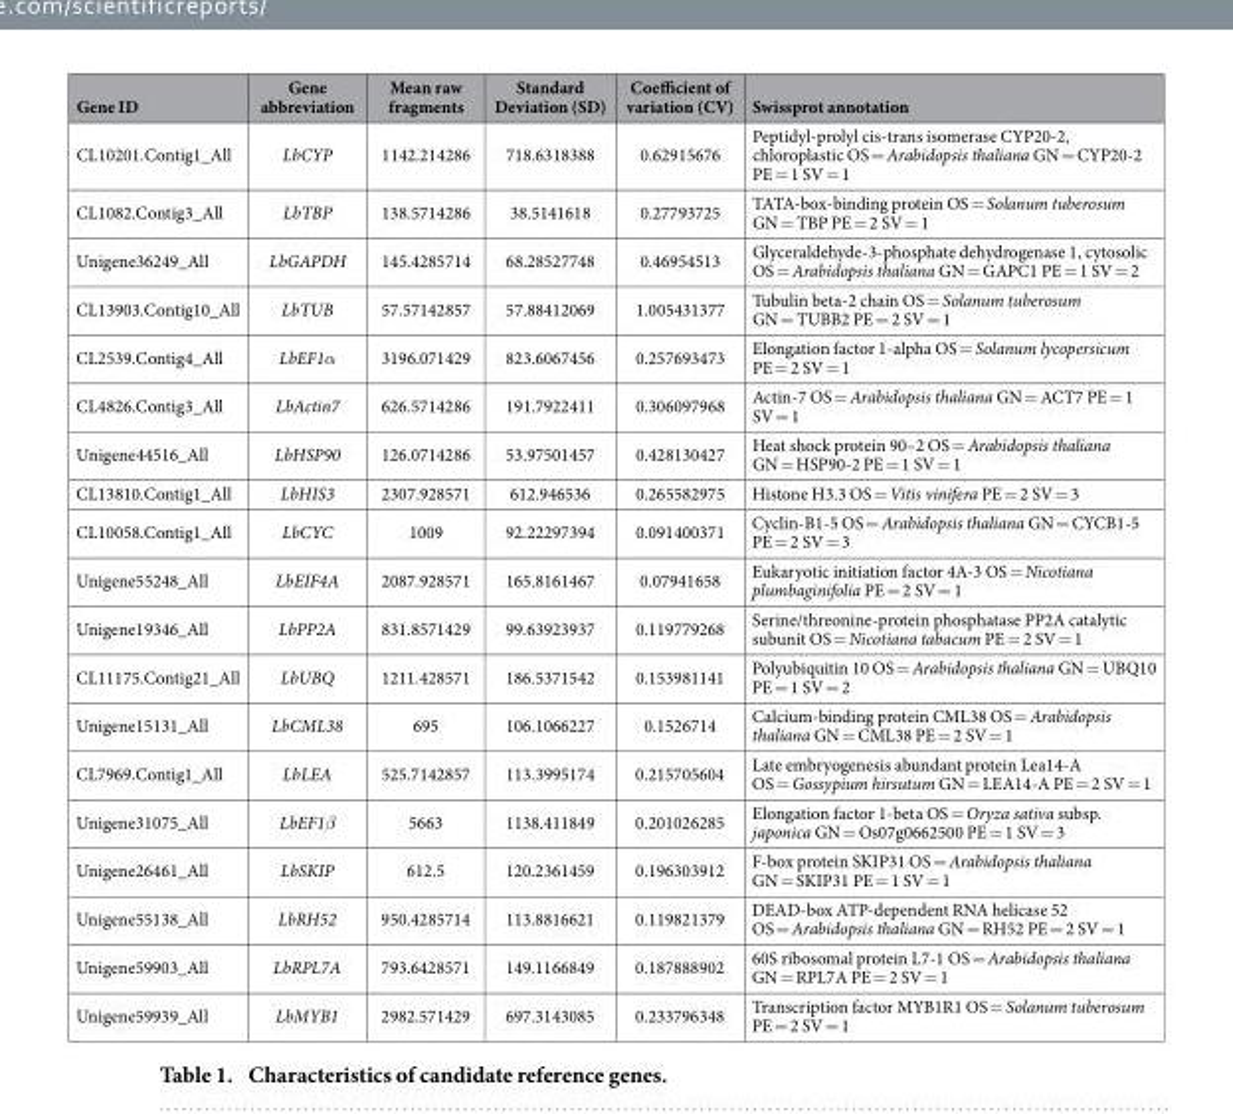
<table><thead><tr><td>Gene ID</td><td>Gene abbreviation</td><td>Mean raw fragments</td><td>Standard Deviation (SD)</td><td>Coefficient of variation (CV)</td><td>Swissprot annotation</td></tr></thead><tbody><tr><td>CL10201.Contig1_All</td><td>LbCYP</td><td>1142.214286</td><td>718.6318388</td><td>0.62915676</td><td>Peptidyl-prolyl cis-trans isomerase CYP20-2, chloroplastic OS = Arabidopsis thaliana GN = CYP20-2 PE = 1 SV = 1</td></tr><tr><td>CL1082.Contig3_All</td><td>LbTBP</td><td>138.5714286</td><td>38.5141618</td><td>0.27793725</td><td>TATA-box-binding protein OS = Solanum tuberosum GN = TBP PE = 2 SV = 1</td></tr><tr><td>Unigene36249_All</td><td>LbGAPDH</td><td>145.4285714</td><td>68.28527748</td><td>0.46954513</td><td>Glyceraldehyde-3-phosphate dehydrogenase 1, cytosolic OS = Arabidopsis thaliana GN = GAPC1 PE = 1 SV = 2</td></tr><tr><td>CL13903.Contig10_All</td><td>LbTUB</td><td>57.57142857</td><td>57.88412069</td><td>1.005431377</td><td>Tubulin beta-2 chain OS = Solanum tuberosum GN = TUBB2 PE = 2 SV = 1</td></tr><tr><td>CL2539.Contig4_All</td><td>LbEF1α</td><td>3196.071429</td><td>823.6067456</td><td>0.257693473</td><td>Elongation factor 1-alpha OS = Solanum lycopersicum PE = 2 SV = 1</td></tr><tr><td>CL4826.Contig3_All</td><td>LbActin7</td><td>626.5714286</td><td>191.7922411</td><td>0.306097968</td><td>Actin-7 OS = Arabidopsis thaliana GN = ACT7 PE = 1 SV = 1</td></tr><tr><td>Unigene44516_All</td><td>LbHSP90</td><td>126.0714286</td><td>53.97501457</td><td>0.428130427</td><td>Heat shock protein 90–2 OS = Arabidopsis thaliana GN = HSP90-2 PE = 1 SV = 1</td></tr><tr><td>CL13810.Contig1_All</td><td>LbHIS3</td><td>2307.928571</td><td>612.946536</td><td>0.265582975</td><td>Histone H3.3 OS = Vitis vinifera PE = 2 SV = 3</td></tr><tr><td>CL10058.Contig1_All</td><td>LbCYC</td><td>1009</td><td>92.22297394</td><td>0.091400371</td><td>Cyclin-B1-5 OS = Arabidopsis thaliana GN = CYCB1-5 PE = 2 SV = 3</td></tr><tr><td>Unigene55248_All</td><td>LbEIF4A</td><td>2087.928571</td><td>165.8161467</td><td>0.07941658</td><td>Eukaryotic initiation factor 4A-3 OS = Nicotiana plumbaginifolia PE = 2 SV = 1</td></tr><tr><td>Unigene19346_All</td><td>LbPP2A</td><td>831.8571429</td><td>99.63923937</td><td>0.119779268</td><td>Serine/threonine-protein phosphatase PP2A catalytic subunit OS = Nicotiana tabacum PE = 2 SV = 1</td></tr><tr><td>CL11175.Contig21_All</td><td>LbUBQ</td><td>1211.428571</td><td>186.5371542</td><td>0.153981141</td><td>Polyubiquitin 10 OS = Arabidopsis thaliana GN = UBQ10 PE = 1 SV = 2</td></tr><tr><td>Unigene15131_All</td><td>LbCML38</td><td>695</td><td>106.1066227</td><td>0.1526714</td><td>Calcium-binding protein CML38 OS = Arabidopsis thaliana GN = CML38 PE = 2 SV = 1</td></tr><tr><td>CL7969.Contig1_All</td><td>LbLEA</td><td>525.7142857</td><td>113.3995174</td><td>0.215705604</td><td>Late embryogenesis abundant protein Lea14-A OS = Gossypium hirsutum GN = LEA14-A PE = 2 SV = 1</td></tr><tr><td>Unigene31075_All</td><td>LbEF1β</td><td>5663</td><td>1138.411849</td><td>0.201026285</td><td>Elongation factor 1-beta OS = Oryza sativa subsp. japonica GN = Os07g0662500 PE = 1 SV = 3</td></tr><tr><td>Unigene26461_All</td><td>LbSKIP</td><td>612.5</td><td>120.2361459</td><td>0.196303912</td><td>F-box protein SKIP31 OS = Arabidopsis thaliana GN = SKIP31 PE = 1 SV = 1</td></tr><tr><td>Unigene55138_All</td><td>LbRH52</td><td>950.4285714</td><td>113.8816621</td><td>0.119821379</td><td>DEAD-box ATP-dependent RNA helicase 52 OS = Arabidopsis thaliana GN = RH52 PE = 2 SV = 1</td></tr><tr><td>Unigene59903_All</td><td>LbRPL7A</td><td>793.6428571</td><td>149.1166849</td><td>0.187888902</td><td>60S ribosomal protein L7-1 OS = Arabidopsis thaliana GN = RPL7A PE = 2 SV = 1</td></tr><tr><td>Unigene59939_All</td><td>LbMYB1</td><td>2982.571429</td><td>697.3143085</td><td>0.233796348</td><td>Transcription factor MYB1R1 OS = Solanum tuberosum PE = 2 SV = 1</td></tr></tbody></table>